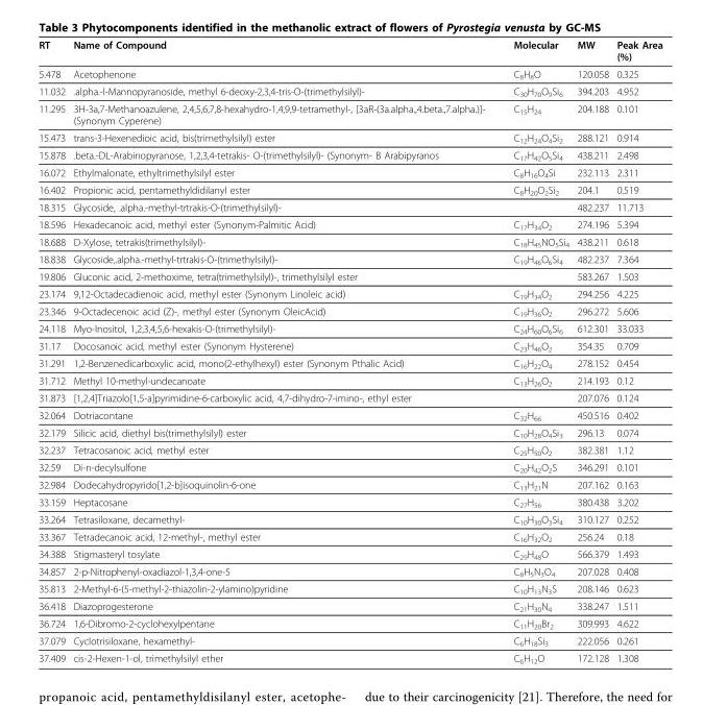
<table><thead><tr><td>RT</td><td>Name of Compound</td><td>Molecular</td><td>MW</td><td>Peak Area (%)</td></tr></thead><tbody><tr><td>5.478</td><td>Acetophenone</td><td>C<sub>8</sub>H<sub>8</sub>O</td><td>120.058</td><td>0.325</td></tr><tr><td>11.032</td><td>.alpha.-l-Mannopyranoside, methyl 6-deoxy-2,3,4-tris-O-(trimethylsilyl)-</td><td>C<sub>30</sub>H<sub>70</sub>O<sub>9</sub>Si<sub>6</sub></td><td>394.203</td><td>4.952</td></tr><tr><td>11.295</td><td>3H-3a,7-Methanoazulene, 2,4,5,6,7,8-hexahydro-1,4,9,9-tetramethyl-, [3aR-(3a.alpha.,4.beta.,7.alpha.)]- (Synonym Cyperene)</td><td>C<sub>15</sub>H<sub>24</sub></td><td>204.188</td><td>0.101</td></tr><tr><td>15.473</td><td>trans-3-Hexenedioic acid, bis(trimethylsilyl) ester</td><td>C<sub>12</sub>H<sub>24</sub>O<sub>4</sub>Si<sub>2</sub></td><td>288.121</td><td>0.914</td></tr><tr><td>15.878</td><td>.beta.-DL-Arabinopyranose, 1,2,3,4-tetrakis- O-(trimethylsilyl)- (Synonym- B Arabipyranos</td><td>C<sub>17</sub>H<sub>42</sub>O<sub>5</sub>Si<sub>4</sub></td><td>438.211</td><td>2.498</td></tr><tr><td>16.072</td><td>Ethylmalonate, ethyltrimethylsilyl ester</td><td>C<sub>8</sub>H<sub>16</sub>O<sub>4</sub>Si</td><td>232.113</td><td>2.311</td></tr><tr><td>16.402</td><td>Propionic acid, pentamethyldidilanyl ester</td><td>C<sub>8</sub>H<sub>20</sub>O<sub>2</sub>Si<sub>2</sub></td><td>204.1</td><td>0.519</td></tr><tr><td>18.315</td><td>Glycoside, .alpha.-methyl-trtrakis-O-(trimethylsilyl)-</td><td></td><td>482.237</td><td>11.713</td></tr><tr><td>18.596</td><td>Hexadecanoic acid, methyl ester (Synonym-Palmitic Acid)</td><td>C<sub>17</sub>H<sub>34</sub>O<sub>2</sub></td><td>274.196</td><td>5.394</td></tr><tr><td>18.688</td><td>D-Xylose, tetrakis(trimethylsilyl)-</td><td>C<sub>18</sub>H<sub>45</sub>NO<sub>5</sub>Si<sub>4</sub></td><td>438.211</td><td>0.618</td></tr><tr><td>18.838</td><td>Glycoside,.alpha.-methyl-trtrakis-O-(trimethylsilyl)-</td><td>C<sub>19</sub>H<sub>46</sub>O<sub>6</sub>Si<sub>4</sub></td><td>482.237</td><td>7.364</td></tr><tr><td>19.806</td><td>Gluconic acid, 2-methoxime, tetra(trimethylsilyl)-, trimethylsilyl ester</td><td></td><td>583.267</td><td>1.503</td></tr><tr><td>23.174</td><td>9,12-Octadecadienoic acid, methyl ester (Synonym Linoleic acid)</td><td>C<sub>19</sub>H<sub>34</sub>O<sub>2</sub></td><td>294.256</td><td>4.225</td></tr><tr><td>23.346</td><td>9-Octadecenoic acid (Z)-, methyl ester (Synonym OleicAcid)</td><td>C<sub>19</sub>H<sub>36</sub>O<sub>2</sub></td><td>296.272</td><td>5.606</td></tr><tr><td>24.118</td><td>Myo-Inositol, 1,2,3,4,5,6-hexakis-O-(trimethylsilyl)-</td><td>C<sub>24</sub>H<sub>60</sub>O<sub>6</sub>Si<sub>6</sub></td><td>612.301</td><td>33.033</td></tr><tr><td>31.17</td><td>Docosanoic acid, methyl ester (Synonym Hysterene)</td><td>C<sub>23</sub>H<sub>46</sub>O<sub>2</sub></td><td>354.35</td><td>0.709</td></tr><tr><td>31.291</td><td>1,2-Benzenedicarboxylic acid, mono(2-ethylhexyl) ester (Synonym Pthalic Acid)</td><td>C<sub>16</sub>H<sub>22</sub>O<sub>4</sub></td><td>278.152</td><td>0.454</td></tr><tr><td>31.712</td><td>Methyl 10-methyl-undecanoate</td><td>C<sub>13</sub>H<sub>26</sub>O<sub>2</sub></td><td>214.193</td><td>0.12</td></tr><tr><td>31.873</td><td>[1,2,4]Triazolo[1,5-a]pyrimidine-6-carboxylic acid, 4,7-dihydro-7-imino-, ethyl ester</td><td></td><td>207.076</td><td>0.124</td></tr><tr><td>32.064</td><td>Dotriacontane</td><td>C<sub>32</sub>H<sub>66</sub></td><td>450.516</td><td>0.402</td></tr><tr><td>32.179</td><td>Silicic acid, diethyl bis(trimethylsilyl) ester</td><td>C<sub>10</sub>H<sub>28</sub>O<sub>4</sub>Si<sub>3</sub></td><td>296.13</td><td>0.074</td></tr><tr><td>32.237</td><td>Tetracosanoic acid, methyl ester</td><td>C<sub>25</sub>H<sub>50</sub>O<sub>2</sub></td><td>382.381</td><td>1.12</td></tr><tr><td>32.59</td><td>Di-n-decylsulfone</td><td>C<sub>20</sub>H<sub>42</sub>O<sub>2</sub>S</td><td>346.291</td><td>0.101</td></tr><tr><td>32.984</td><td>Dodecahydropyrido[1,2-b]isoquinolin-6-one</td><td>C<sub>13</sub>H<sub>21</sub>N</td><td>207.162</td><td>0.163</td></tr><tr><td>33.159</td><td>Heptacosane</td><td>C<sub>27</sub>H<sub>56</sub></td><td>380.438</td><td>3.202</td></tr><tr><td>33.264</td><td>Tetrasiloxane, decamethyl-</td><td>C<sub>10</sub>H<sub>30</sub>O<sub>3</sub>Si<sub>4</sub></td><td>310.127</td><td>0.252</td></tr><tr><td>33.367</td><td>Tetradecanoic acid, 12-methyl-, methyl ester</td><td>C<sub>16</sub>H<sub>32</sub>O<sub>2</sub></td><td>256.24</td><td>0.18</td></tr><tr><td>34.388</td><td>Stigmasteryl tosylate</td><td>C<sub>29</sub>H<sub>48</sub>O</td><td>566.379</td><td>1.493</td></tr><tr><td>34.857</td><td>2-p-Nitrophenyl-oxadiazol-1,3,4-one-5</td><td>C<sub>8</sub>H<sub>5</sub>N<sub>3</sub>O<sub>4</sub></td><td>207.028</td><td>0.408</td></tr><tr><td>35.813</td><td>2-Methyl-6-(5-methyl-2-thiazolin-2-ylamino)pyridine</td><td>C<sub>10</sub>H<sub>13</sub>N<sub>3</sub>S</td><td>208.146</td><td>0.623</td></tr><tr><td>36.418</td><td>Diazoprogesterone</td><td>C<sub>21</sub>H<sub>30</sub>N<sub>4</sub></td><td>338.247</td><td>1.511</td></tr><tr><td>36.724</td><td>1,6-Dibromo-2-cyclohexylpentane</td><td>C<sub>11</sub>H<sub>20</sub>Br<sub>2</sub></td><td>309.993</td><td>4.622</td></tr><tr><td>37.079</td><td>Cyclotrisiloxane, hexamethyl-</td><td>C<sub>6</sub>H<sub>18</sub>Si<sub>3</sub></td><td>222.056</td><td>0.261</td></tr><tr><td>37.409</td><td>cis-2-Hexen-1-ol, trimethylsilyl ether</td><td>C<sub>6</sub>H<sub>12</sub>O</td><td>172.128</td><td>1.308</td></tr></tbody></table>